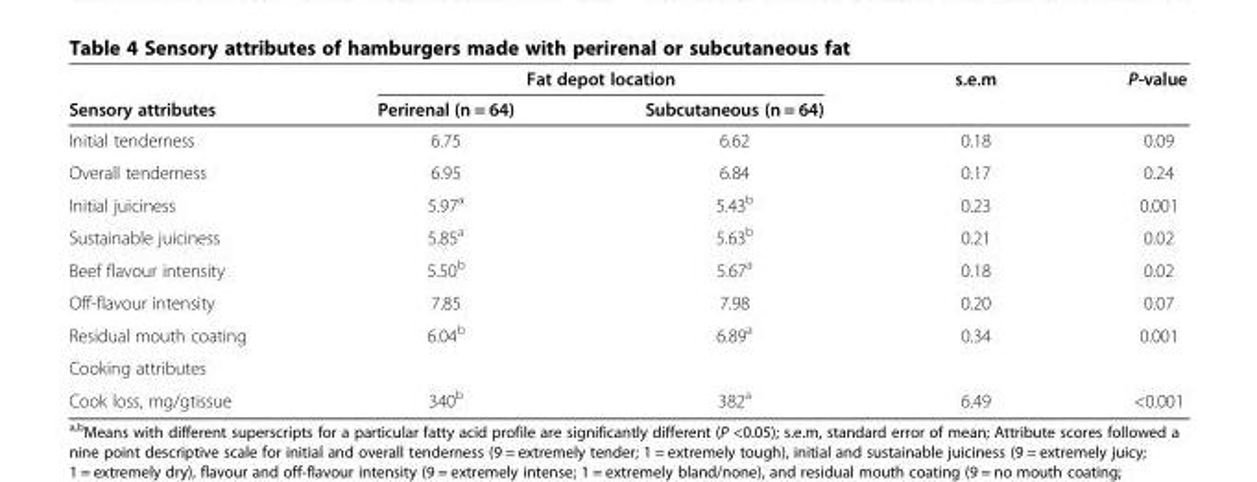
<table><thead><tr><td rowspan="2">Sensory attributes</td><td colspan="2">Fat depot location</td><td rowspan="2">s.e.m</td><td rowspan="2">P-value</td></tr><tr><td>Perirenal (n = 64)</td><td>Subcutaneous (n = 64)</td></tr></thead><tbody><tr><td>Initial tenderness</td><td>6.75</td><td>6.62</td><td>0.18</td><td>0.09</td></tr><tr><td>Overall tenderness</td><td>6.95</td><td>6.84</td><td>0.17</td><td>0.24</td></tr><tr><td>Initial juiciness</td><td>5.97<sup>a</sup></td><td>5.43<sup>b</sup></td><td>0.23</td><td>0.001</td></tr><tr><td>Sustainable juiciness</td><td>5.85<sup>a</sup></td><td>5.63<sup>b</sup></td><td>0.21</td><td>0.02</td></tr><tr><td>Beef flavour intensity</td><td>5.50<sup>b</sup></td><td>5.67<sup>a</sup></td><td>0.18</td><td>0.02</td></tr><tr><td>Off-flavour intensity</td><td>7.85</td><td>7.98</td><td>0.20</td><td>0.07</td></tr><tr><td>Residual mouth coating</td><td>6.04<sup>b</sup></td><td>6.89<sup>a</sup></td><td>0.34</td><td>0.001</td></tr><tr><td colspan="5">Cooking attributes</td></tr><tr><td>Cook loss, mg/gtissue</td><td>340<sup>b</sup></td><td>382<sup>a</sup></td><td>6.49</td><td>&lt;0.001</td></tr></tbody></table>